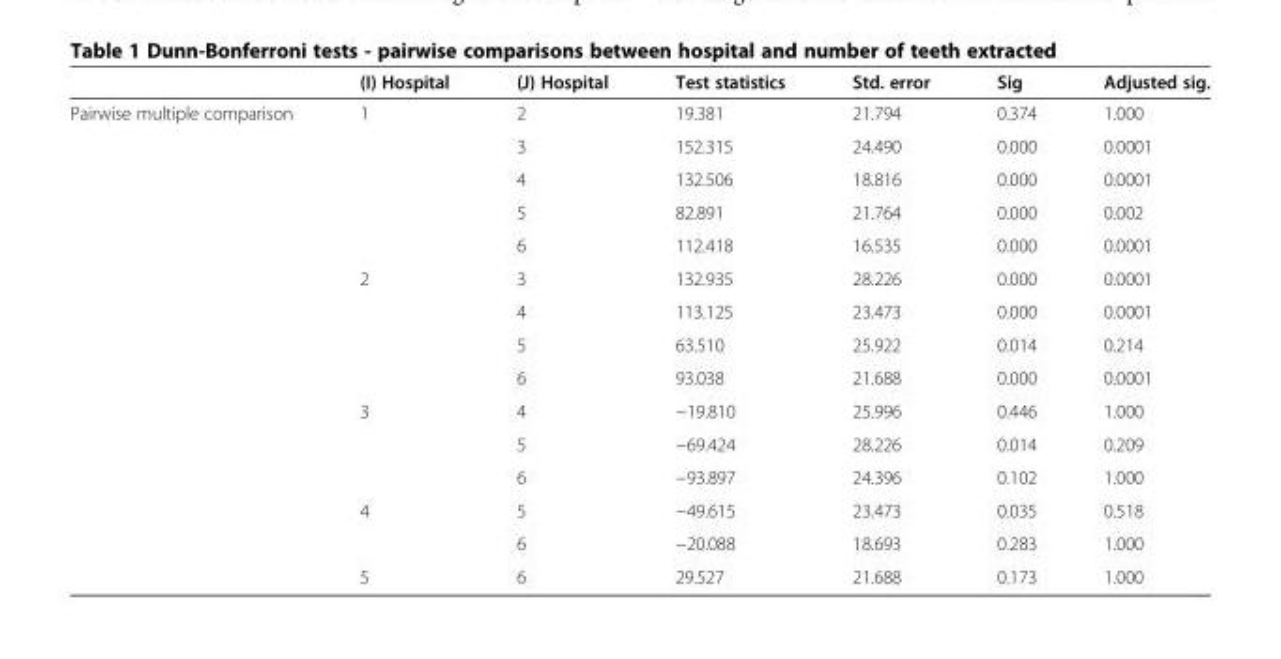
<table><thead><tr><td></td><td>(I) Hospital</td><td>(J) Hospital</td><td>Test statistics</td><td>Std. error</td><td>Sig</td><td>Adjusted sig.</td></tr></thead><tbody><tr><td rowspan="15">Pairwise multiple comparison</td><td>1</td><td>2</td><td>19.381</td><td>21.794</td><td>0.374</td><td>1.000</td></tr><tr><td></td><td>3</td><td>152.315</td><td>24.490</td><td>0.000</td><td>0.0001</td></tr><tr><td></td><td>4</td><td>132.506</td><td>18.816</td><td>0.000</td><td>0.0001</td></tr><tr><td></td><td>5</td><td>82.891</td><td>21.764</td><td>0.000</td><td>0.002</td></tr><tr><td></td><td>6</td><td>112.418</td><td>16.535</td><td>0.000</td><td>0.0001</td></tr><tr><td>2</td><td>3</td><td>132.935</td><td>28.226</td><td>0.000</td><td>0.0001</td></tr><tr><td></td><td>4</td><td>113.125</td><td>23.473</td><td>0.000</td><td>0.0001</td></tr><tr><td></td><td>5</td><td>63.510</td><td>25.922</td><td>0.014</td><td>0.214</td></tr><tr><td></td><td>6</td><td>93.038</td><td>21.688</td><td>0.000</td><td>0.0001</td></tr><tr><td>3</td><td>4</td><td>−19.810</td><td>25.996</td><td>0.446</td><td>1.000</td></tr><tr><td></td><td>5</td><td>−69.424</td><td>28.226</td><td>0.014</td><td>0.209</td></tr><tr><td></td><td>6</td><td>−93.897</td><td>24.396</td><td>0.102</td><td>1.000</td></tr><tr><td>4</td><td>5</td><td>−49.615</td><td>23.473</td><td>0.035</td><td>0.518</td></tr><tr><td></td><td>6</td><td>−20.088</td><td>18.693</td><td>0.283</td><td>1.000</td></tr><tr><td>5</td><td>6</td><td>29.527</td><td>21.688</td><td>0.173</td><td>1.000</td></tr></tbody></table>